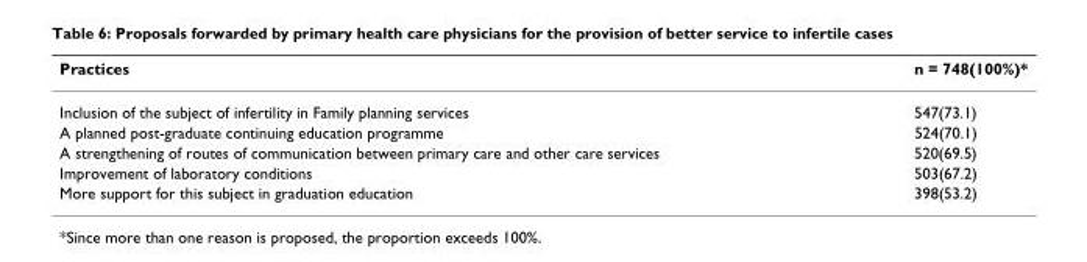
<table><thead><tr><td>Practices</td><td>n = 748(100%)*</td></tr></thead><tbody><tr><td>Inclusion of the subject of infertility in Family planning services</td><td>547(73.1)</td></tr><tr><td>A planned post-graduate continuing education programme</td><td>524(70.1)</td></tr><tr><td>A strengthening of routes of communication between primary care and other care services</td><td>520(69.5)</td></tr><tr><td>Improvement of laboratory conditions</td><td>503(67.2)</td></tr><tr><td>More support for this subject in graduation education</td><td>398(53.2)</td></tr></tbody></table>